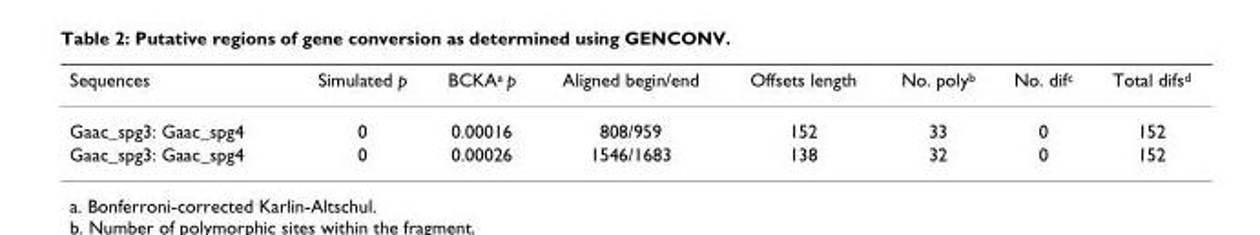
<table><thead><tr><td>Sequences</td><td>Simulated p</td><td>BCKA<sup>a</sup> p</td><td>Aligned begin/end</td><td>Offsets length</td><td>No. poly<sup>b</sup></td><td>No. dif<sup>c</sup></td><td>Total difs<sup>d</sup></td></tr></thead><tbody><tr><td>Gaac_spg3: Gaac_spg4</td><td>0</td><td>0.00016</td><td>808/959</td><td>152</td><td>33</td><td>0</td><td>152</td></tr><tr><td>Gaac_spg3: Gaac_spg4</td><td>0</td><td>0.00026</td><td>1546/1683</td><td>138</td><td>32</td><td>0</td><td>152</td></tr></tbody></table>